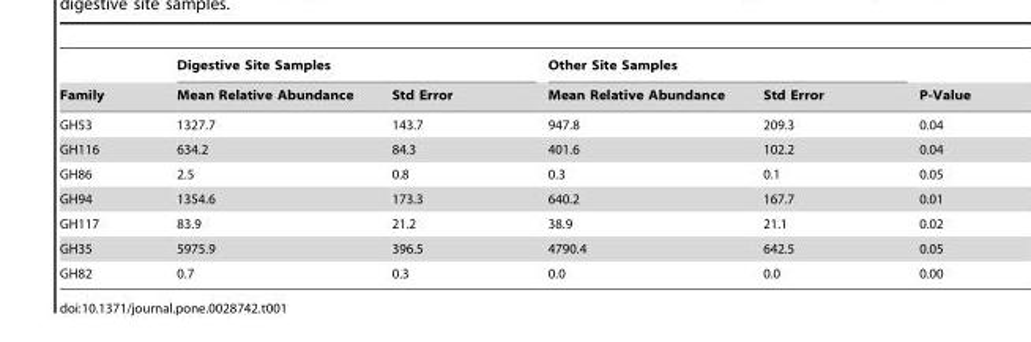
<table><thead><tr><td rowspan="2">Family</td><td colspan="2">Digestive Site Samples</td><td colspan="2">Other Site Samples</td><td rowspan="2">P-Value</td></tr><tr><td>Mean Relative Abundance</td><td>Std Error</td><td>Mean Relative Abundance</td><td>Std Error</td></tr></thead><tbody><tr><td>GH53</td><td>1327.7</td><td>143.7</td><td>947.8</td><td>209.3</td><td>0.04</td></tr><tr><td>GH116</td><td>634.2</td><td>84.3</td><td>401.6</td><td>102.2</td><td>0.04</td></tr><tr><td>GH86</td><td>2.5</td><td>0.8</td><td>0.3</td><td>0.1</td><td>0.05</td></tr><tr><td>GH94</td><td>1354.6</td><td>173.3</td><td>640.2</td><td>167.7</td><td>0.01</td></tr><tr><td>GH117</td><td>83.9</td><td>21.2</td><td>38.9</td><td>21.1</td><td>0.02</td></tr><tr><td>GH35</td><td>5975.9</td><td>396.5</td><td>4790.4</td><td>642.5</td><td>0.05</td></tr><tr><td>GH82</td><td>0.7</td><td>0.3</td><td>0.0</td><td>0.0</td><td>0.00</td></tr></tbody></table>